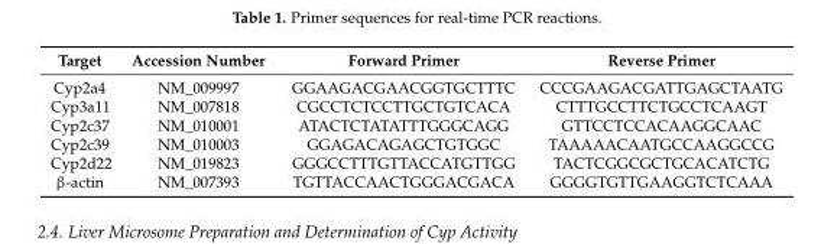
<table><thead><tr><td>Target</td><td>Accession Number</td><td>Forward Primer</td><td>Reverse Primer</td></tr></thead><tbody><tr><td>Cyp2a4</td><td>NM_009997</td><td>GGAAGACGAACGGTGCTTTC</td><td>CCCGAAGACGATTGAGCTAATG</td></tr><tr><td>Cyp3a11</td><td>NM_007818</td><td>CGCCTCTCCTTGCTGTCACA</td><td>CTTTGCCTTCTGCCTCAAGT</td></tr><tr><td>Cyp2c37</td><td>NM_010001</td><td>ATACTCTATATTTGGGCAGG</td><td>GTTCCTCCACAAGGCAAC</td></tr><tr><td>Cyp2c39</td><td>NM_010003</td><td>GGAGACAGAGCTGTGGC</td><td>TAAAAACAATGCCAAGGCCG</td></tr><tr><td>Cyp2d22</td><td>NM_019823</td><td>GGGCCTTTGTTACCATGTTGG</td><td>TACTCGGCGCTGCACATCTG</td></tr><tr><td>β-actin</td><td>NM_007393</td><td>TGTTACCAACTGGGACGACA</td><td>GGGGTGTTGAAGGTCTCAAA</td></tr></tbody></table>